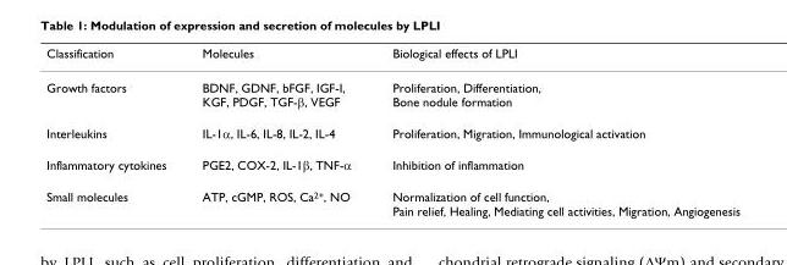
<table><thead><tr><td>Classification</td><td>Molecules</td><td>Biological effects of LPLI</td></tr></thead><tbody><tr><td>Growth factors</td><td>BDNF, GDNF, bFGF, IGF-I, KGF, PDGF, TGF-β, VEGF</td><td>Proliferation, Differentiation, Bone nodule formation</td></tr><tr><td>Interleukins</td><td>IL-1α, IL-6, IL-8, IL-2, IL-4</td><td>Proliferation, Migration, Immunological activation</td></tr><tr><td>Inflammatory cytokines</td><td>PGE2, COX-2, IL-1β, TNF-α</td><td>Inhibition of inflammation</td></tr><tr><td>Small molecules</td><td>ATP, cGMP, ROS, Ca<sup>2+</sup>, NO</td><td>Normalization of cell function, Pain relief, Healing, Mediating cell activities, Migration, Angiogenesis</td></tr></tbody></table>